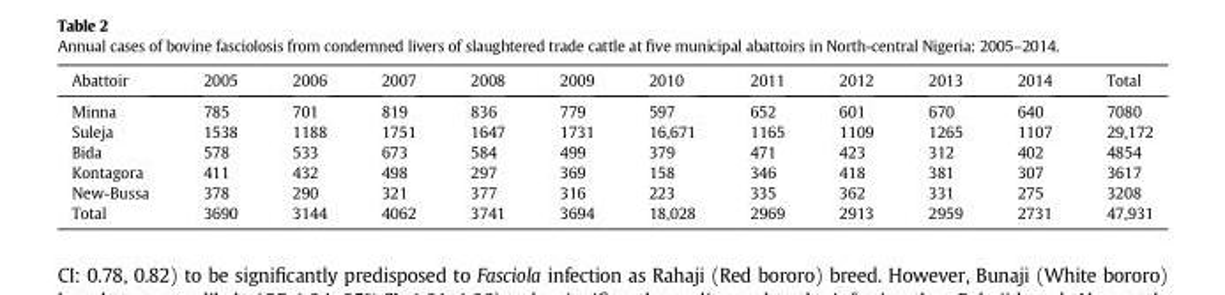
<table><thead><tr><td>Abattoir</td><td>2005</td><td>2006</td><td>2007</td><td>2008</td><td>2009</td><td>2010</td><td>2011</td><td>2012</td><td>2013</td><td>2014</td><td>Total</td></tr></thead><tbody><tr><td>Minna</td><td>785</td><td>701</td><td>819</td><td>836</td><td>779</td><td>597</td><td>652</td><td>601</td><td>670</td><td>640</td><td>7080</td></tr><tr><td>Suleja</td><td>1538</td><td>1188</td><td>1751</td><td>1647</td><td>1731</td><td>16,671</td><td>1165</td><td>1109</td><td>1265</td><td>1107</td><td>29,172</td></tr><tr><td>Bida</td><td>578</td><td>533</td><td>673</td><td>584</td><td>499</td><td>379</td><td>471</td><td>423</td><td>312</td><td>402</td><td>4854</td></tr><tr><td>Kontagora</td><td>411</td><td>432</td><td>498</td><td>297</td><td>369</td><td>158</td><td>346</td><td>418</td><td>381</td><td>307</td><td>3617</td></tr><tr><td>New-Bussa</td><td>378</td><td>290</td><td>321</td><td>377</td><td>316</td><td>223</td><td>335</td><td>362</td><td>331</td><td>275</td><td>3208</td></tr><tr><td>Total</td><td>3690</td><td>3144</td><td>4062</td><td>3741</td><td>3694</td><td>18,028</td><td>2969</td><td>2913</td><td>2959</td><td>2731</td><td>47,931</td></tr></tbody></table>